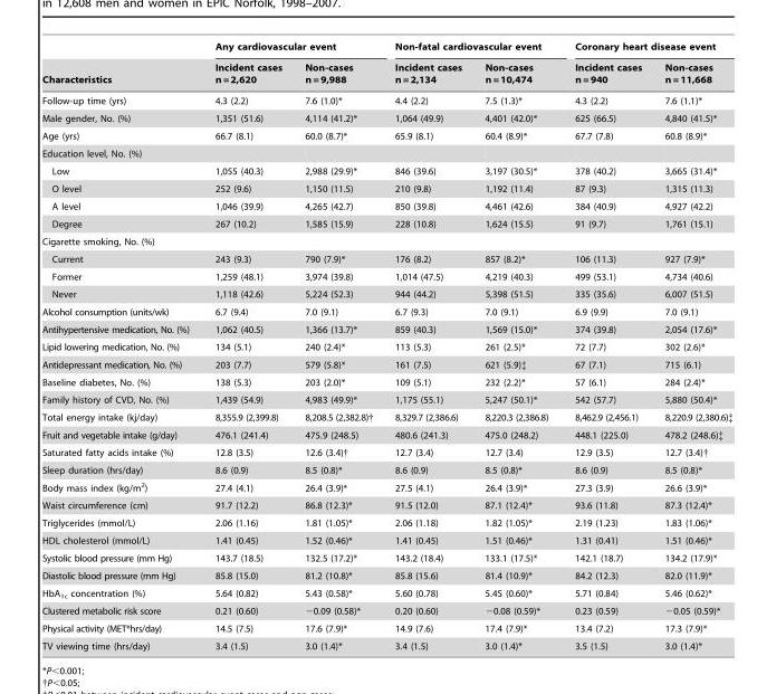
<table><thead><tr><td rowspan="2">Characteristics</td><td colspan="2">Any cardiovascular event</td><td colspan="2">Non-fatal cardiovascular event</td><td colspan="2">Coronary heart disease event</td></tr><tr><td>Incident cases n = 2,620</td><td>Non-cases n = 9,988</td><td>Incident cases n = 2,134</td><td>Non-cases n = 10,474</td><td>Incident cases n = 940</td><td>Non-cases n = 11,668</td></tr></thead><tbody><tr><td>Follow-up time (yrs)</td><td>4.3 (2.2)</td><td>7.6 (1.0)*</td><td>4.4 (2.2)</td><td>7.5 (1.3)*</td><td>4.3 (2.2)</td><td>7.6 (1.1)*</td></tr><tr><td>Male gender, No. (%)</td><td>1,351 (51.6)</td><td>4,114 (41.2)*</td><td>1,064 (49.9)</td><td>4,401 (42.0)*</td><td>625 (66.5)</td><td>4,840 (41.5)*</td></tr><tr><td>Age (yrs)</td><td>66.7 (8.1)</td><td>60.0 (8.7)*</td><td>65.9 (8.1)</td><td>60.4 (8.9)*</td><td>67.7 (7.8)</td><td>60.8 (8.9)*</td></tr><tr><td colspan="7">Education level, No. (%)</td></tr><tr><td>Low</td><td>1,055 (40.3)</td><td>2,988 (29.9)*</td><td>846 (39.6)</td><td>3,197 (30.5)*</td><td>378 (40.2)</td><td>3,665 (31.4)*</td></tr><tr><td>O level</td><td>252 (9.6)</td><td>1,150 (11.5)</td><td>210 (9.8)</td><td>1,192 (11.4)</td><td>87 (9.3)</td><td>1,315 (11.3)</td></tr><tr><td>A level</td><td>1,046 (39.9)</td><td>4,265 (42.7)</td><td>850 (39.8)</td><td>4,461 (42.6)</td><td>384 (40.9)</td><td>4,927 (42.2)</td></tr><tr><td>Degree</td><td>267 (10.2)</td><td>1,585 (15.9)</td><td>228 (10.8)</td><td>1,624 (15.5)</td><td>91 (9.7)</td><td>1,761 (15.1)</td></tr><tr><td colspan="7">Cigarette smoking, No. (%)</td></tr><tr><td>Current</td><td>243 (9.3)</td><td>790 (7.9)*</td><td>176 (8.2)</td><td>857 (8.2)*</td><td>106 (11.3)</td><td>927 (7.9)*</td></tr><tr><td>Former</td><td>1,259 (48.1)</td><td>3,974 (39.8)</td><td>1,014 (47.5)</td><td>4,219 (40.3)</td><td>499 (53.1)</td><td>4,734 (40.6)</td></tr><tr><td>Never</td><td>1,118 (42.6)</td><td>5,224 (52.3)</td><td>944 (44.2)</td><td>5,398 (51.5)</td><td>335 (35.6)</td><td>6,007 (51.5)</td></tr><tr><td>Alcohol consumption (units/wk)</td><td>6.7 (9.4)</td><td>7.0 (9.1)</td><td>6.7 (9.3)</td><td>7.0 (9.1)</td><td>6.9 (9.9)</td><td>7.0 (9.1)</td></tr><tr><td>Antihypertensive medication, No. (%)</td><td>1,062 (40.5)</td><td>1,366 (13.7)*</td><td>859 (40.3)</td><td>1,569 (15.0)*</td><td>374 (39.8)</td><td>2,054 (17.6)*</td></tr><tr><td>Lipid lowering medication, No. (%)</td><td>134 (5.1)</td><td>240 (2.4)*</td><td>113 (5.3)</td><td>261 (2.5)*</td><td>72 (7.7)</td><td>302 (2.6)*</td></tr><tr><td>Antidepressant medication, No. (%)</td><td>203 (7.7)</td><td>579 (5.8)*</td><td>161 (7.5)</td><td>621 (5.9)‡</td><td>67 (7.1)</td><td>715 (6.1)</td></tr><tr><td>Baseline diabetes, No. (%)</td><td>138 (5.3)</td><td>203 (2.0)*</td><td>109 (5.1)</td><td>232 (2.2)*</td><td>57 (6.1)</td><td>284 (2.4)*</td></tr><tr><td>Family history of CVD, No. (%)</td><td>1,439 (54.9)</td><td>4,983 (49.9)*</td><td>1,175 (55.1)</td><td>5,247 (50.1)*</td><td>542 (57.7)</td><td>5,880 (50.4)*</td></tr><tr><td>Total energy intake (kj/day)</td><td>8,355.9 (2,399.8)</td><td>8,208.5 (2,382.8)†</td><td>8,329.7 (2,386.6)</td><td>8,220.3 (2,386.8)</td><td>8,462.9 (2,456.1)</td><td>8,220.9 (2,380.6)‡</td></tr><tr><td>Fruit and vegetable intake (g/day)</td><td>476.1 (241.4)</td><td>475.9 (248.5)</td><td>480.6 (241.3)</td><td>475.0 (248.2)</td><td>448.1 (225.0)</td><td>478.2 (248.6)‡</td></tr><tr><td>Saturated fatty acids intake (%)</td><td>12.8 (3.5)</td><td>12.6 (3.4)†</td><td>12.7 (3.4)</td><td>12.7 (3.4)</td><td>12.9 (3.5)</td><td>12.7 (3.4)†</td></tr><tr><td>Sleep duration (hrs/day)</td><td>8.6 (0.9)</td><td>8.5 (0.8)*</td><td>8.6 (0.9)</td><td>8.5 (0.8)*</td><td>8.6 (0.9)</td><td>8.5 (0.8)*</td></tr><tr><td>Body mass index (kg/m<sup>2</sup>)</td><td>27.4 (4.1)</td><td>26.4 (3.9)*</td><td>27.5 (4.1)</td><td>26.4 (3.9)*</td><td>27.3 (3.9)</td><td>26.6 (3.9)*</td></tr><tr><td>Waist circumference (cm)</td><td>91.7 (12.2)</td><td>86.8 (12.3)*</td><td>91.5 (12.0)</td><td>87.1 (12.4)*</td><td>93.6 (11.8)</td><td>87.3 (12.4)*</td></tr><tr><td>Triglycerides (mmol/L)</td><td>2.06 (1.16)</td><td>1.81 (1.05)*</td><td>2.06 (1.18)</td><td>1.82 (1.05)*</td><td>2.19 (1.23)</td><td>1.83 (1.06)*</td></tr><tr><td>HDL cholesterol (mmol/L)</td><td>1.41 (0.45)</td><td>1.52 (0.46)*</td><td>1.41 (0.45)</td><td>1.51 (0.46)*</td><td>1.31 (0.41)</td><td>1.51 (0.46)*</td></tr><tr><td>Systolic blood pressure (mm Hg)</td><td>143.7 (18.5)</td><td>132.5 (17.2)*</td><td>143.2 (18.4)</td><td>133.1 (17.5)*</td><td>142.1 (18.7)</td><td>134.2 (17.9)*</td></tr><tr><td>Diastolic blood pressure (mm Hg)</td><td>85.8 (15.0)</td><td>81.2 (10.8)*</td><td>85.8 (15.6)</td><td>81.4 (10.9)*</td><td>84.2 (12.3)</td><td>82.0 (11.9)*</td></tr><tr><td>HbA<sub>1c</sub> concentration (%)</td><td>5.64 (0.82)</td><td>5.43 (0.58)*</td><td>5.60 (0.78)</td><td>5.45 (0.60)*</td><td>5.71 (0.84)</td><td>5.46 (0.62)*</td></tr><tr><td>Clustered metabolic risk score</td><td>0.21 (0.60)</td><td>−0.09 (0.58)*</td><td>0.20 (0.60)</td><td>−0.08 (0.59)*</td><td>0.23 (0.59)</td><td>−0.05 (0.59)*</td></tr><tr><td>Physical activity (MET*hrs/day)</td><td>14.5 (7.5)</td><td>17.6 (7.9)*</td><td>14.9 (7.6)</td><td>17.4 (7.9)*</td><td>13.4 (7.2)</td><td>17.3 (7.9)*</td></tr><tr><td>TV viewing time (hrs/day)</td><td>3.4 (1.5)</td><td>3.0 (1.4)*</td><td>3.4 (1.5)</td><td>3.0 (1.4)*</td><td>3.5 (1.5)</td><td>3.0 (1.4)*</td></tr></tbody></table>